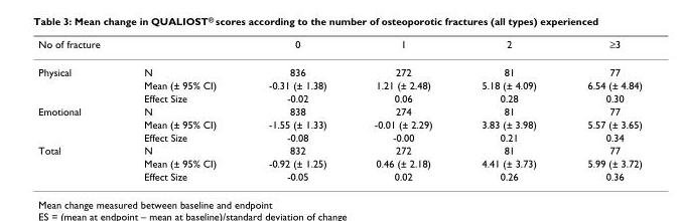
<table><thead><tr><td>No of fracture</td><td></td><td>0</td><td>1</td><td>2</td><td>≥3</td></tr></thead><tbody><tr><td rowspan="3">Physical</td><td>N</td><td>836</td><td>272</td><td>81</td><td>77</td></tr><tr><td>Mean (± 95% CI)</td><td>-0.31 (± 1.38)</td><td>1.21 (± 2.48)</td><td>5.18 (± 4.09)</td><td>6.54 (± 4.84)</td></tr><tr><td>Effect Size</td><td>-0.02</td><td>0.06</td><td>0.28</td><td>0.30</td></tr><tr><td rowspan="3">Emotional</td><td>N</td><td>838</td><td>274</td><td>81</td><td>77</td></tr><tr><td>Mean (± 95% CI)</td><td>-1.55 (± 1.33)</td><td>-0.01 (± 2.29)</td><td>3.83 (± 3.98)</td><td>5.57 (± 3.65)</td></tr><tr><td>Effect Size</td><td>-0.08</td><td>-0.00</td><td>0.21</td><td>0.34</td></tr><tr><td rowspan="3">Total</td><td>N</td><td>832</td><td>272</td><td>81</td><td>77</td></tr><tr><td>Mean (± 95% CI)</td><td>-0.92 (± 1.25)</td><td>0.46 (± 2.18)</td><td>4.41 (± 3.73)</td><td>5.99 (± 3.72)</td></tr><tr><td>Effect Size</td><td>-0.05</td><td>0.02</td><td>0.26</td><td>0.36</td></tr></tbody></table>